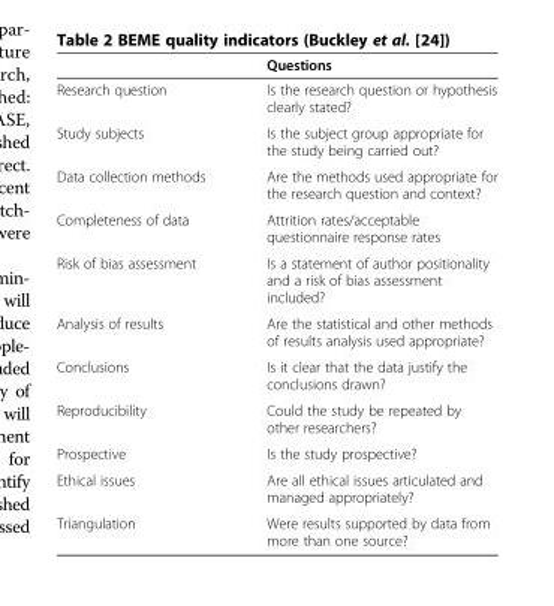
<table><thead><tr><td></td><td>Questions</td></tr></thead><tbody><tr><td>Research question</td><td>Is the research question or hypothesis clearly stated?</td></tr><tr><td>Study subjects</td><td>Is the subject group appropriate for the study being carried out?</td></tr><tr><td>Data collection methods</td><td>Are the methods used appropriate for the research question and context?</td></tr><tr><td>Completeness of data</td><td>Attrition rates/acceptable questionnaire response rates</td></tr><tr><td>Risk of bias assessment</td><td>Is a statement of author positionality and a risk of bias assessment included?</td></tr><tr><td>Analysis of results</td><td>Are the statistical and other methods of results analysis used appropriate?</td></tr><tr><td>Conclusions</td><td>Is it clear that the data justify the conclusions drawn?</td></tr><tr><td>Reproducibility</td><td>Could the study be repeated by other researchers?</td></tr><tr><td>Prospective</td><td>Is the study prospective?</td></tr><tr><td>Ethical issues</td><td>Are all ethical issues articulated and managed appropriately?</td></tr><tr><td>Triangulation</td><td>Were results supported by data from more than one source?</td></tr></tbody></table>